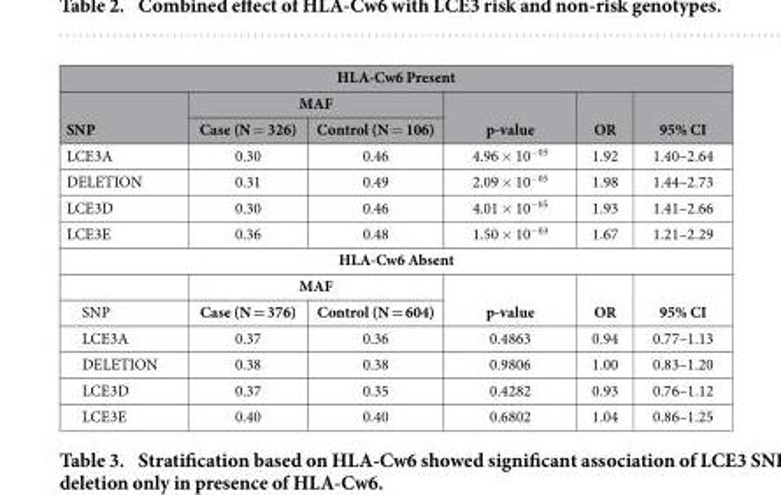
<table><thead><tr><td colspan="6">HLA-Cw6 Present</td></tr><tr><td rowspan="2">SNP</td><td colspan="2">MAF</td><td rowspan="2">p-value</td><td rowspan="2">OR</td><td rowspan="2">95% CI</td></tr><tr><td>Case (N = 326)</td><td>Control (N = 106)</td></tr></thead><tbody><tr><td>LCE3A</td><td>0.30</td><td>0.46</td><td>4.96 × 10<sup>−05</sup></td><td>1.92</td><td>1.40–2.64</td></tr><tr><td>DELETION</td><td>0.31</td><td>0.49</td><td>2.09 × 10<sup>−05</sup></td><td>1.98</td><td>1.44–2.73</td></tr><tr><td>LCE3D</td><td>0.30</td><td>0.46</td><td>4.01 × 10<sup>−05</sup></td><td>1.93</td><td>1.41–2.66</td></tr><tr><td>LCE3E</td><td>0.36</td><td>0.48</td><td>1.50 × 10<sup>−03</sup></td><td>1.67</td><td>1.21–2.29</td></tr><tr><td colspan="6">HLA-Cw6 Absent</td></tr><tr><td></td><td colspan="2">MAF</td><td rowspan="2">p-value</td><td rowspan="2">OR</td><td rowspan="2">95% CI</td></tr><tr><td>SNP</td><td>Case (N = 376)</td><td>Control (N = 604)</td></tr><tr><td>LCE3A</td><td>0.37</td><td>0.36</td><td>0.4863</td><td>0.94</td><td>0.77–1.13</td></tr><tr><td>DELETION</td><td>0.38</td><td>0.38</td><td>0.9806</td><td>1.00</td><td>0.83–1.20</td></tr><tr><td>LCE3D</td><td>0.37</td><td>0.35</td><td>0.4282</td><td>0.93</td><td>0.76–1.12</td></tr><tr><td>LCE3E</td><td>0.40</td><td>0.40</td><td>0.6802</td><td>1.04</td><td>0.86–1.25</td></tr></tbody></table>